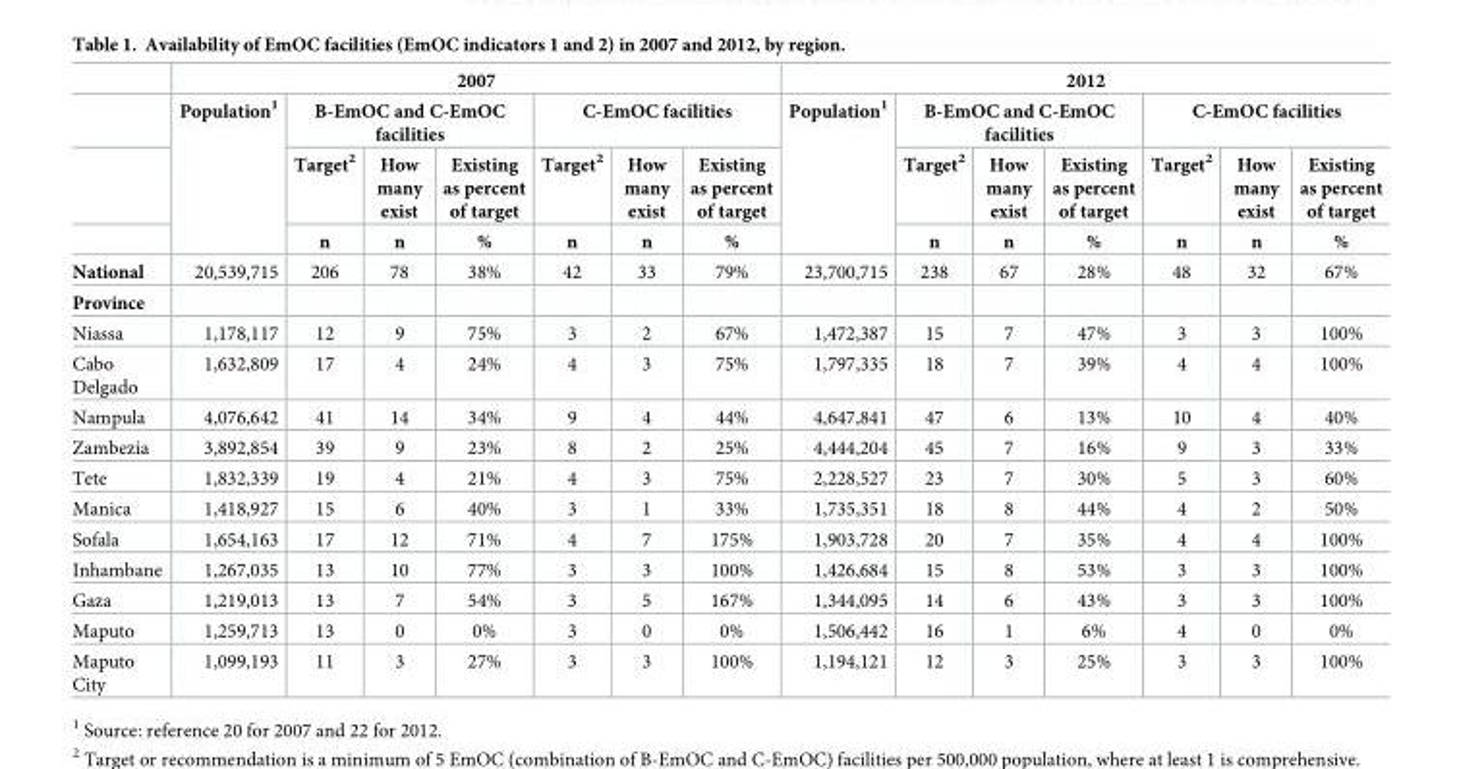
<table><thead><tr><td rowspan="4"></td><td colspan="7">2007</td><td colspan="7">2012</td></tr><tr><td rowspan="3">Population<sup>1</sup></td><td colspan="3">B-EmOC and C-EmOC facilities</td><td colspan="3">C-EmOC facilities</td><td rowspan="3">Population<sup>1</sup></td><td colspan="3">B-EmOC and C-EmOC facilities</td><td colspan="3">C-EmOC facilities</td></tr><tr><td rowspan="2">Target<sup>2</sup> n</td><td rowspan="2">How many exist n</td><td rowspan="2">Existing as percent of target %</td><td rowspan="2">Target<sup>2</sup> n</td><td rowspan="2">How many exist n</td><td rowspan="2">Existing as percent of target %</td><td rowspan="2">Target<sup>2</sup> n</td><td rowspan="2">How many exist n</td><td rowspan="2">Existing as percent of target %</td><td rowspan="2">Target<sup>2</sup> n</td><td rowspan="2">How many exist n</td><td rowspan="2">Existing as percent of target %</td></tr><tr></tr></thead><tbody><tr><td>National</td><td>20,539,715</td><td>206</td><td>78</td><td>38%</td><td>42</td><td>33</td><td>79%</td><td>23,700,715</td><td>238</td><td>67</td><td>28%</td><td>48</td><td>32</td><td>67%</td></tr><tr><td colspan="15">Province</td></tr><tr><td>Niassa</td><td>1,178,117</td><td>12</td><td>9</td><td>75%</td><td>3</td><td>2</td><td>67%</td><td>1,472,387</td><td>15</td><td>7</td><td>47%</td><td>3</td><td>3</td><td>100%</td></tr><tr><td>Cabo Delgado</td><td>1,632,809</td><td>17</td><td>4</td><td>24%</td><td>4</td><td>3</td><td>75%</td><td>1,797,335</td><td>18</td><td>7</td><td>39%</td><td>4</td><td>4</td><td>100%</td></tr><tr><td>Nampula</td><td>4,076,642</td><td>41</td><td>14</td><td>34%</td><td>9</td><td>4</td><td>44%</td><td>4,647,841</td><td>47</td><td>6</td><td>13%</td><td>10</td><td>4</td><td>40%</td></tr><tr><td>Zambezia</td><td>3,892,854</td><td>39</td><td>9</td><td>23%</td><td>8</td><td>2</td><td>25%</td><td>4,444,204</td><td>45</td><td>7</td><td>16%</td><td>9</td><td>3</td><td>33%</td></tr><tr><td>Tete</td><td>1,832,339</td><td>19</td><td>4</td><td>21%</td><td>4</td><td>3</td><td>75%</td><td>2,228,527</td><td>23</td><td>7</td><td>30%</td><td>5</td><td>3</td><td>60%</td></tr><tr><td>Manica</td><td>1,418,927</td><td>15</td><td>6</td><td>40%</td><td>3</td><td>1</td><td>33%</td><td>1,735,351</td><td>18</td><td>8</td><td>44%</td><td>4</td><td>2</td><td>50%</td></tr><tr><td>Sofala</td><td>1,654,163</td><td>17</td><td>12</td><td>71%</td><td>4</td><td>7</td><td>175%</td><td>1,903,728</td><td>20</td><td>7</td><td>35%</td><td>4</td><td>4</td><td>100%</td></tr><tr><td>Inhambane</td><td>1,267,035</td><td>13</td><td>10</td><td>77%</td><td>3</td><td>3</td><td>100%</td><td>1,426,684</td><td>15</td><td>8</td><td>53%</td><td>3</td><td>3</td><td>100%</td></tr><tr><td>Gaza</td><td>1,219,013</td><td>13</td><td>7</td><td>54%</td><td>3</td><td>5</td><td>167%</td><td>1,344,095</td><td>14</td><td>6</td><td>43%</td><td>3</td><td>3</td><td>100%</td></tr><tr><td>Maputo</td><td>1,259,713</td><td>13</td><td>0</td><td>0%</td><td>3</td><td>0</td><td>0%</td><td>1,506,442</td><td>16</td><td>1</td><td>6%</td><td>4</td><td>0</td><td>0%</td></tr><tr><td>Maputo City</td><td>1,099,193</td><td>11</td><td>3</td><td>27%</td><td>3</td><td>3</td><td>100%</td><td>1,194,121</td><td>12</td><td>3</td><td>25%</td><td>3</td><td>3</td><td>100%</td></tr></tbody></table>